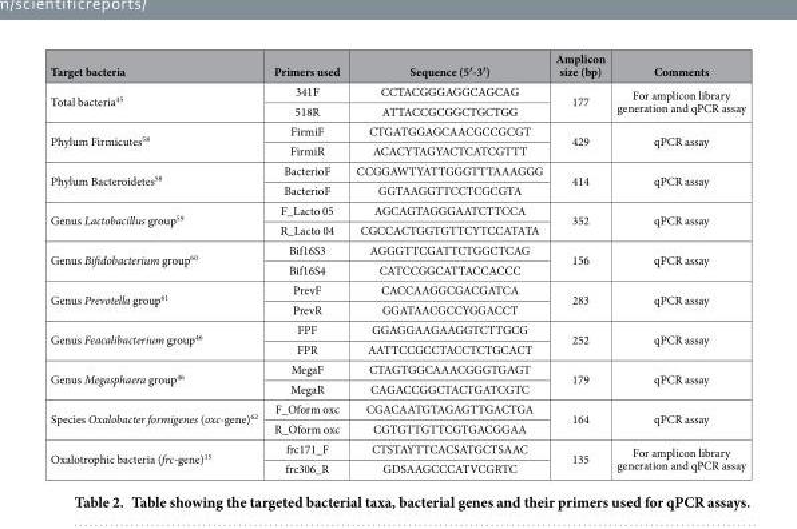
<table><thead><tr><td>Target bacteria</td><td>Primers used</td><td>Sequence (5′-3′)</td><td>Amplicon size (bp)</td><td>Comments</td></tr></thead><tbody><tr><td rowspan="2">Total bacteria<sup>45</sup></td><td>341F</td><td>CCTACGGGAGGCAGCAG</td><td rowspan="2">177</td><td rowspan="2">For amplicon library generation and qPCR assay</td></tr><tr><td>518R</td><td>ATTACCGCGGCTGCTGG</td></tr><tr><td rowspan="2">Phylum Firmicutes<sup>58</sup></td><td>FirmiF</td><td>CTGATGGAGCAACGCCGCGT</td><td rowspan="2">429</td><td rowspan="2">qPCR assay</td></tr><tr><td>FirmiR</td><td>ACACYTAGYACTCATCGTTT</td></tr><tr><td rowspan="2">Phylum Bacteroidetes<sup>58</sup></td><td>BacterioF</td><td>CCGGAWTYATTGGGTTTAAAGGG</td><td rowspan="2">414</td><td rowspan="2">qPCR assay</td></tr><tr><td>BacterioF</td><td>GGTAAGGTTCCTCGCGTA</td></tr><tr><td rowspan="2">Genus Lactobacillus group<sup>59</sup></td><td>F_Lacto 05</td><td>AGCAGTAGGGAATCTTCCA</td><td rowspan="2">352</td><td rowspan="2">qPCR assay</td></tr><tr><td>R_Lacto 04</td><td>CGCCACTGGTGTTCYTCCATATA</td></tr><tr><td rowspan="2">Genus Bifidobacterium group<sup>60</sup></td><td>Bif16S3</td><td>AGGGTTCGATTCTGGCTCAG</td><td rowspan="2">156</td><td rowspan="2">qPCR assay</td></tr><tr><td>Bif16S4</td><td>CATCCGGCATTACCACCC</td></tr><tr><td rowspan="2">Genus Prevotella group<sup>61</sup></td><td>PrevF</td><td>CACCAAGGCGACGATCA</td><td rowspan="2">283</td><td rowspan="2">qPCR assay</td></tr><tr><td>PrevR</td><td>GGATAACGCCYGGACCT</td></tr><tr><td rowspan="2">Genus Feacalibacterium group<sup>46</sup></td><td>FPF</td><td>GGAGGAAGAAGGTCTTGCG</td><td rowspan="2">252</td><td rowspan="2">qPCR assay</td></tr><tr><td>FPR</td><td>AATTCCGCCTACCTCTGCACT</td></tr><tr><td rowspan="2">Genus Megasphaera group<sup>46</sup></td><td>MegaF</td><td>CTAGTGGCAAACGGGTGAGT</td><td rowspan="2">179</td><td rowspan="2">qPCR assay</td></tr><tr><td>MegaR</td><td>CAGACCGGCTACTGATCGTC</td></tr><tr><td rowspan="2">Species Oxalobacter formigenes (oxc-gene)<sup>62</sup></td><td>F_Oform oxc</td><td>CGACAATGTAGAGTTGACTGA</td><td rowspan="2">164</td><td rowspan="2">qPCR assay</td></tr><tr><td>R_Oform oxc</td><td>CGTGTTGTTCGTGACGGAA</td></tr><tr><td rowspan="2">Oxalotrophic bacteria (frc-gene)<sup>15</sup></td><td>frc171_F</td><td>CTSTAYTTCACSATGCTSAAC</td><td rowspan="2">135</td><td rowspan="2">For amplicon library generation and qPCR assay</td></tr><tr><td>frc306_R</td><td>GDSAAGCCCATVCGRTC</td></tr></tbody></table>